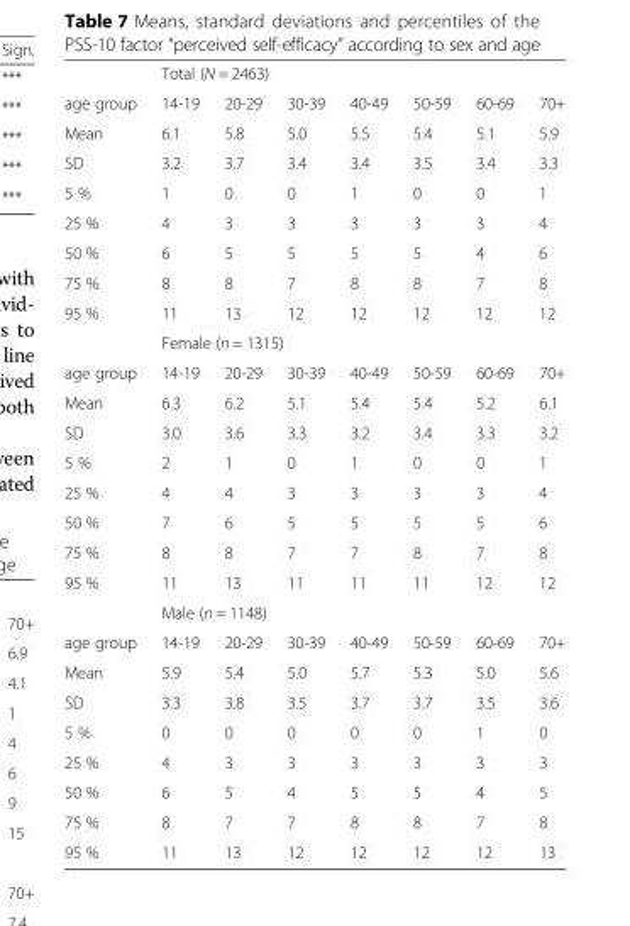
<table><thead><tr><td rowspan="2">age group</td><td colspan="7">Total (N = 2463)</td></tr><tr><td>14-19</td><td>20-29</td><td>30-39</td><td>40-49</td><td>50-59</td><td>60-69</td><td>70+</td></tr></thead><tbody><tr><td>Mean</td><td>6.1</td><td>5.8</td><td>5.0</td><td>5.5</td><td>5.4</td><td>5.1</td><td>5.9</td></tr><tr><td>SD</td><td>3.2</td><td>3.7</td><td>3.4</td><td>3.4</td><td>3.5</td><td>3.4</td><td>3.3</td></tr><tr><td>5 %</td><td>1</td><td>0</td><td>0</td><td>1</td><td>0</td><td>0</td><td>1</td></tr><tr><td>25 %</td><td>4</td><td>3</td><td>3</td><td>3</td><td>3</td><td>3</td><td>4</td></tr><tr><td>50 %</td><td>6</td><td>5</td><td>5</td><td>5</td><td>5</td><td>4</td><td>6</td></tr><tr><td>75 %</td><td>8</td><td>8</td><td>7</td><td>8</td><td>8</td><td>7</td><td>8</td></tr><tr><td rowspan="2">95 %</td><td>11</td><td>13</td><td>12</td><td>12</td><td>12</td><td>12</td><td>12</td></tr><tr><td colspan="7">Female (n = 1315)</td></tr><tr><td>age group</td><td>14-19</td><td>20-29</td><td>30-39</td><td>40-49</td><td>50-59</td><td>60-69</td><td>70+</td></tr><tr><td>Mean</td><td>6.3</td><td>6.2</td><td>5.1</td><td>5.4</td><td>5.4</td><td>5.2</td><td>6.1</td></tr><tr><td>SD</td><td>3.0</td><td>3.6</td><td>3.3</td><td>3.2</td><td>3.4</td><td>3.3</td><td>3.2</td></tr><tr><td>5 %</td><td>2</td><td>1</td><td>0</td><td>1</td><td>0</td><td>0</td><td>1</td></tr><tr><td>25 %</td><td>4</td><td>4</td><td>3</td><td>3</td><td>3</td><td>3</td><td>4</td></tr><tr><td>50 %</td><td>7</td><td>6</td><td>5</td><td>5</td><td>5</td><td>5</td><td>6</td></tr><tr><td>75 %</td><td>8</td><td>8</td><td>7</td><td>7</td><td>8</td><td>7</td><td>8</td></tr><tr><td rowspan="2">95 %</td><td>11</td><td>13</td><td>11</td><td>11</td><td>11</td><td>12</td><td>12</td></tr><tr><td colspan="7">Male (n = 1148)</td></tr><tr><td>age group</td><td>14-19</td><td>20-29</td><td>30-39</td><td>40-49</td><td>50-59</td><td>60-69</td><td>70+</td></tr><tr><td>Mean</td><td>5.9</td><td>5.4</td><td>5.0</td><td>5.7</td><td>5.3</td><td>5.0</td><td>5.6</td></tr><tr><td>SD</td><td>3.3</td><td>3.8</td><td>3.5</td><td>3.7</td><td>3.7</td><td>3.5</td><td>3.6</td></tr><tr><td>5 %</td><td>0</td><td>0</td><td>0</td><td>0</td><td>0</td><td>1</td><td>0</td></tr><tr><td>25 %</td><td>4</td><td>3</td><td>3</td><td>3</td><td>3</td><td>3</td><td>3</td></tr><tr><td>50 %</td><td>6</td><td>5</td><td>4</td><td>5</td><td>5</td><td>4</td><td>5</td></tr><tr><td>75 %</td><td>8</td><td>7</td><td>7</td><td>8</td><td>8</td><td>7</td><td>8</td></tr><tr><td>95 %</td><td>11</td><td>13</td><td>12</td><td>12</td><td>12</td><td>12</td><td>13</td></tr></tbody></table>